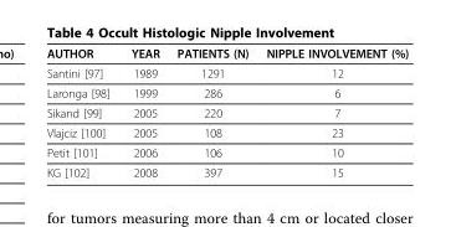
<table><thead><tr><td>AUTHOR</td><td>YEAR</td><td>PATIENTS (N)</td><td>NIPPLE INVOLVEMENT (%)</td></tr></thead><tbody><tr><td>Santini [97]</td><td>1989</td><td>1291</td><td>12</td></tr><tr><td>Laronga [98]</td><td>1999</td><td>286</td><td>6</td></tr><tr><td>Sikand [99]</td><td>2005</td><td>220</td><td>7</td></tr><tr><td>Vlajciz [100]</td><td>2005</td><td>108</td><td>23</td></tr><tr><td>Petit [101]</td><td>2006</td><td>106</td><td>10</td></tr><tr><td>KG [102]</td><td>2008</td><td>397</td><td>15</td></tr></tbody></table>